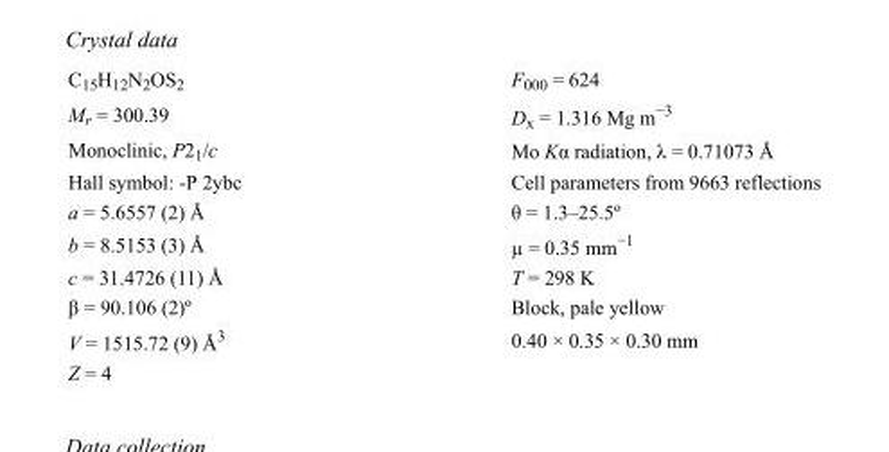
<table><tbody><tr><td>C<sub>15</sub>H<sub>12</sub>N<sub>2</sub>OS<sub>2</sub></td><td>F000 = 624</td></tr><tr><td>M<sub>r</sub> = 300.39</td><td>D<sub>x</sub> = 1.316 Mg m<sup>−3</sup></td></tr><tr><td>Monoclinic, P2<sub>1</sub>/c</td><td>Mo Kα radiation, λ = 0.71073 Å</td></tr><tr><td>Hall symbol: -P 2ybc</td><td>Cell parameters from 9663 reflections</td></tr><tr><td>a = 5.6557 (2) Å</td><td>θ = 1.3–25.5º</td></tr><tr><td>b = 8.5153 (3) Å</td><td>µ = 0.35 mm<sup>−1</sup></td></tr><tr><td>c = 31.4726 (11) Å</td><td>T = 298 K</td></tr><tr><td>β = 90.106 (2)º</td><td>Block, pale yellow</td></tr><tr><td>V = 1515.72 (9) Å<sup>3</sup></td><td>0.40 × 0.35 × 0.30 mm</td></tr><tr><td>Z = 4</td><td></td></tr></tbody></table>